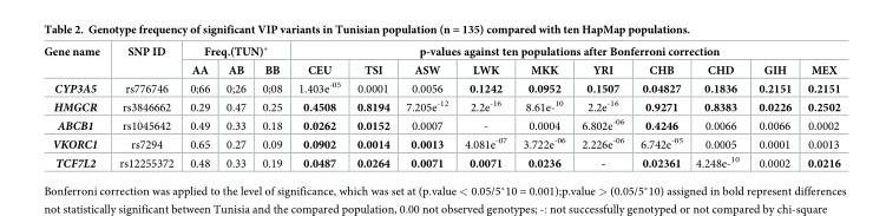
<table><thead><tr><td rowspan="2">Gene name</td><td rowspan="2">SNP ID</td><td colspan="3">Freq.(TUN)*</td><td colspan="10">p-values against ten populations after Bonferroni correction</td></tr><tr><td>AA</td><td>AB</td><td>BB</td><td>CEU</td><td>TSI</td><td>ASW</td><td>LWK</td><td>MKK</td><td>YRI</td><td>CHB</td><td>CHD</td><td>GIH</td><td>MEX</td></tr></thead><tbody><tr><td>CYP3A5</td><td>rs776746</td><td>0;66</td><td>0;26</td><td>0;08</td><td>1.403e<sup>-05</sup></td><td>0.0001</td><td>0.0056</td><td>0.1242</td><td>0.0952</td><td>0.1507</td><td>0.04827</td><td>0.1836</td><td>0.2151</td><td>0.2151</td></tr><tr><td>HMGCR</td><td>rs3846662</td><td>0.29</td><td>0.47</td><td>0.25</td><td>0.4508</td><td>0.8194</td><td>7.205e<sup>-12</sup></td><td>2.2e<sup>-16</sup></td><td>8.61e-<sup>10</sup></td><td>2.2e<sup>-16</sup></td><td>0.9271</td><td>0.8383</td><td>0.0226</td><td>0.2502</td></tr><tr><td>ABCB1</td><td>rs1045642</td><td>0.49</td><td>0.33</td><td>0.18</td><td>0.0262</td><td>0.0152</td><td>0.0007</td><td>-</td><td>0.0004</td><td>6.802e<sup>-06</sup></td><td>0.4246</td><td>0.0066</td><td>0.0066</td><td>0.0002</td></tr><tr><td>VKORC1</td><td>rs7294</td><td>0.65</td><td>0.27</td><td>0.09</td><td>0.0902</td><td>0.0014</td><td>0.0013</td><td>4.081e<sup>-07</sup></td><td>3.722e<sup>-06</sup></td><td>2.226e<sup>-06</sup></td><td>6.742e<sup>-05</sup></td><td>0.0005</td><td>0.0001</td><td>0.0013</td></tr><tr><td>TCF7L2</td><td>rs12255372</td><td>0.48</td><td>0.33</td><td>0.19</td><td>0.0487</td><td>0.0264</td><td>0.0071</td><td>0.0071</td><td>0.0236</td><td>-</td><td>0.02361</td><td>4.248e-<sup>10</sup></td><td>0.0002</td><td>0.0216</td></tr></tbody></table>